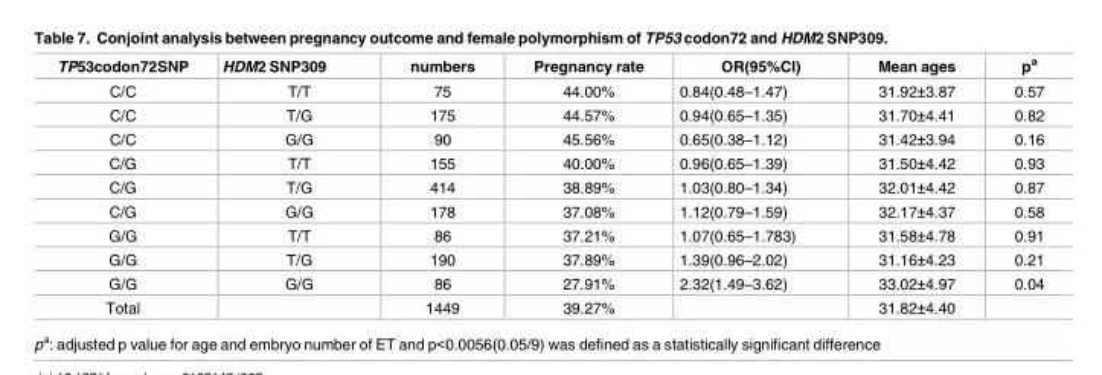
<table><thead><tr><td>TP53codon72SNP</td><td>HDM2 SNP309</td><td>numbers</td><td>Pregnancy rate</td><td>OR(95%CI)</td><td>Mean ages</td><td>p<sup>a</sup></td></tr></thead><tbody><tr><td>C/C</td><td>T/T</td><td>75</td><td>44.00%</td><td>0.84(0.48–1.47)</td><td>31.92±3.87</td><td>0.57</td></tr><tr><td>C/C</td><td>T/G</td><td>175</td><td>44.57%</td><td>0.94(0.65–1.35)</td><td>31.70±4.41</td><td>0.82</td></tr><tr><td>C/C</td><td>G/G</td><td>90</td><td>45.56%</td><td>0.65(0.38–1.12)</td><td>31.42±3.94</td><td>0.16</td></tr><tr><td>C/G</td><td>T/T</td><td>155</td><td>40.00%</td><td>0.96(0.65–1.39)</td><td>31.50±4.42</td><td>0.93</td></tr><tr><td>C/G</td><td>T/G</td><td>414</td><td>38.89%</td><td>1.03(0.80–1.34)</td><td>32.01±4.42</td><td>0.87</td></tr><tr><td>C/G</td><td>G/G</td><td>178</td><td>37.08%</td><td>1.12(0.79–1.59)</td><td>32.17±4.37</td><td>0.58</td></tr><tr><td>G/G</td><td>T/T</td><td>86</td><td>37.21%</td><td>1.07(0.65–1.783)</td><td>31.58±4.78</td><td>0.91</td></tr><tr><td>G/G</td><td>T/G</td><td>190</td><td>37.89%</td><td>1.39(0.96–2.02)</td><td>31.16±4.23</td><td>0.21</td></tr><tr><td>G/G</td><td>G/G</td><td>86</td><td>27.91%</td><td>2.32(1.49–3.62)</td><td>33.02±4.97</td><td>0.04</td></tr><tr><td>Total</td><td></td><td>1449</td><td>39.27%</td><td></td><td>31.82±4.40</td><td></td></tr></tbody></table>